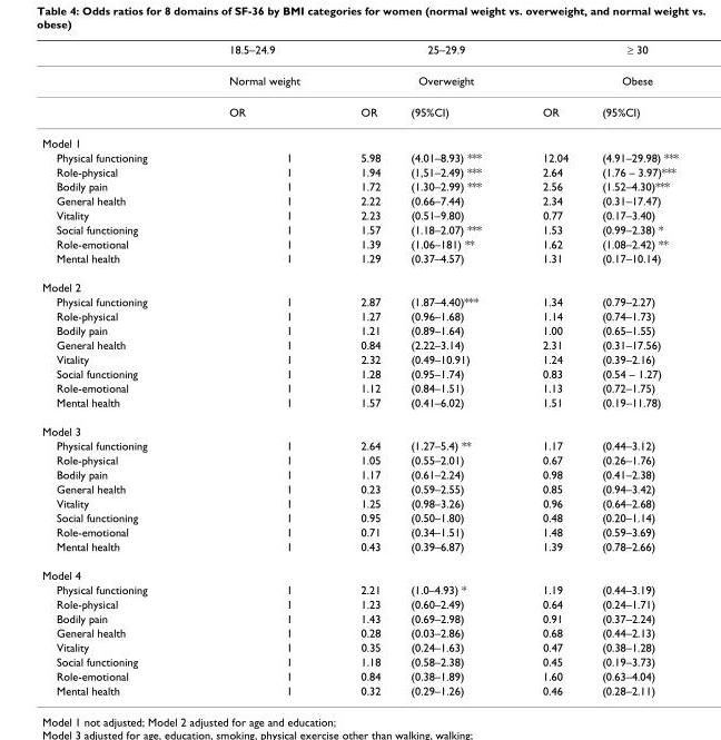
<table><thead><tr><td rowspan="3"></td><td rowspan="3">18.5–24.9 Normal weight OR</td><td rowspan="2" colspan="2">25–29.9 Overweight</td><td rowspan="2" colspan="2">≥ 30 Obese</td></tr><tr></tr><tr><td>OR</td><td>(95%CI)</td><td>OR</td><td>(95%CI)</td></tr></thead><tbody><tr><td colspan="6">Model 1</td></tr><tr><td>Physical functioning</td><td>1</td><td>5.98</td><td>(4.01–8.93) ***</td><td>12.04</td><td>(4.91–29.98) ***</td></tr><tr><td>Role-physical</td><td>1</td><td>1.94</td><td>(1,51–2.49) ***</td><td>2.64</td><td>(1.76 – 3.97)***</td></tr><tr><td>Bodily pain</td><td>1</td><td>1.72</td><td>(1.30–2.99) ***</td><td>2.56</td><td>(1.52–4.30)***</td></tr><tr><td>General health</td><td>1</td><td>2.22</td><td>(0.66–7.44)</td><td>2.34</td><td>(0.31–17.47)</td></tr><tr><td>Vitality</td><td>1</td><td>2.23</td><td>(0.51–9.80)</td><td>0.77</td><td>(0.17–3.40)</td></tr><tr><td>Social functioning</td><td>1</td><td>1.57</td><td>(1.18–2.07) ***</td><td>1.53</td><td>(0.99–2.38) *</td></tr><tr><td>Role-emotional</td><td>1</td><td>1.39</td><td>(1.06–181) **</td><td>1.62</td><td>(1.08–2.42) **</td></tr><tr><td>Mental health</td><td>1</td><td>1.29</td><td>(0.37–4.57)</td><td>1.31</td><td>(0.17–10.14)</td></tr><tr><td colspan="6">Model 2</td></tr><tr><td>Physical functioning</td><td>1</td><td>2.87</td><td>(1.87–4.40)***</td><td>1.34</td><td>(0.79–2.27)</td></tr><tr><td>Role-physical</td><td>1</td><td>1.27</td><td>(0.96–1.68)</td><td>1.14</td><td>(0.74–1.73)</td></tr><tr><td>Bodily pain</td><td>1</td><td>1.21</td><td>(0.89–1.64)</td><td>1.00</td><td>(0.65–1.55)</td></tr><tr><td>General health</td><td>1</td><td>0.84</td><td>(2.22–3.14)</td><td>2.31</td><td>(0.31–17.56)</td></tr><tr><td>Vitality</td><td>1</td><td>2.32</td><td>(0.49–10.91)</td><td>1.24</td><td>(0.39–2.16)</td></tr><tr><td>Social functioning</td><td>1</td><td>1.28</td><td>(0.95–1.74)</td><td>0.83</td><td>(0.54 – 1.27)</td></tr><tr><td>Role-emotional</td><td>1</td><td>1.12</td><td>(0.84–1.51)</td><td>1.13</td><td>(0.72–1.75)</td></tr><tr><td>Mental health</td><td>1</td><td>1.57</td><td>(0.41–6.02)</td><td>1.51</td><td>(0.19–11.78)</td></tr><tr><td colspan="6">Model 3</td></tr><tr><td>Physical functioning</td><td>1</td><td>2.64</td><td>(1.27–5.4) **</td><td>1.17</td><td>(0.44–3.12)</td></tr><tr><td>Role-physical</td><td>1</td><td>1.05</td><td>(0.55–2.01)</td><td>0.67</td><td>(0.26–1.76)</td></tr><tr><td>Bodily pain</td><td>1</td><td>1.17</td><td>(0.61–2.24)</td><td>0.98</td><td>(0.41–2.38)</td></tr><tr><td>General health</td><td>1</td><td>0.23</td><td>(0.59–2.55)</td><td>0.85</td><td>(0.94–3.42)</td></tr><tr><td>Vitality</td><td>1</td><td>1.25</td><td>(0.98–3.26)</td><td>0.96</td><td>(0.64–2.68)</td></tr><tr><td>Social functioning</td><td>1</td><td>0.95</td><td>(0.50–1.80)</td><td>0.48</td><td>(0.20–1.14)</td></tr><tr><td>Role-emotional</td><td>1</td><td>0.71</td><td>(0.34–1.51)</td><td>1.48</td><td>(0.59–3.69)</td></tr><tr><td>Mental health</td><td>1</td><td>0.43</td><td>(0.39–6.87)</td><td>1.39</td><td>(0.78–2.66)</td></tr><tr><td colspan="6">Model 4</td></tr><tr><td>Physical functioning</td><td>1</td><td>2.21</td><td>(1.0–4.93) *</td><td>1.19</td><td>(0.44–3.19)</td></tr><tr><td>Role-physical</td><td>1</td><td>1.23</td><td>(0.60–2.49)</td><td>0.64</td><td>(0.24–1.71)</td></tr><tr><td>Bodily pain</td><td>1</td><td>1.43</td><td>(0.69–2.98)</td><td>0.91</td><td>(0.37–2.24)</td></tr><tr><td>General health</td><td>1</td><td>0.28</td><td>(0.03–2.86)</td><td>0.68</td><td>(0.44–2.13)</td></tr><tr><td>Vitality</td><td>1</td><td>0.35</td><td>(0.24–1.63)</td><td>0.47</td><td>(0.38–1.28)</td></tr><tr><td>Social functioning</td><td>1</td><td>1.18</td><td>(0.58–2.38)</td><td>0.45</td><td>(0.19–3.73)</td></tr><tr><td>Role-emotional</td><td>1</td><td>0.84</td><td>(0.38–1.89)</td><td>1.60</td><td>(0.63–4.04)</td></tr><tr><td>Mental health</td><td>1</td><td>0.32</td><td>(0.29–1.26)</td><td>0.46</td><td>(0.28–2.11)</td></tr></tbody></table>